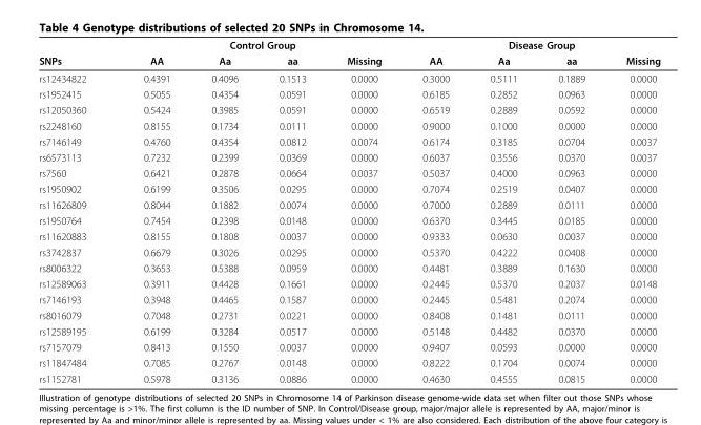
<table><thead><tr><td rowspan="2">SNPs</td><td colspan="4">Control Group</td><td colspan="4">Disease Group</td></tr><tr><td>AA</td><td>Aa</td><td>aa</td><td>Missing</td><td>AA</td><td>Aa</td><td>aa</td><td>Missing</td></tr></thead><tbody><tr><td>rs12434822</td><td>0.4391</td><td>0.4096</td><td>0.1513</td><td>0.0000</td><td>0.3000</td><td>0.5111</td><td>0.1889</td><td>0.0000</td></tr><tr><td>rs1952415</td><td>0.5055</td><td>0.4354</td><td>0.0591</td><td>0.0000</td><td>0.6185</td><td>0.2852</td><td>0.0963</td><td>0.0000</td></tr><tr><td>rs12050360</td><td>0.5424</td><td>0.3985</td><td>0.0591</td><td>0.0000</td><td>0.6519</td><td>0.2889</td><td>0.0592</td><td>0.0000</td></tr><tr><td>rs2248160</td><td>0.8155</td><td>0.1734</td><td>0.0111</td><td>0.0000</td><td>0.9000</td><td>0.1000</td><td>0.0000</td><td>0.0000</td></tr><tr><td>rs7146149</td><td>0.4760</td><td>0.4354</td><td>0.0812</td><td>0.0074</td><td>0.6174</td><td>0.3185</td><td>0.0704</td><td>0.0037</td></tr><tr><td>rs6573113</td><td>0.7232</td><td>0.2399</td><td>0.0369</td><td>0.0000</td><td>0.6037</td><td>0.3556</td><td>0.0370</td><td>0.0037</td></tr><tr><td>rs7560</td><td>0.6421</td><td>0.2878</td><td>0.0664</td><td>0.0037</td><td>0.5037</td><td>0.4000</td><td>0.0963</td><td>0.0000</td></tr><tr><td>rs1950902</td><td>0.6199</td><td>0.3506</td><td>0.0295</td><td>0.0000</td><td>0.7074</td><td>0.2519</td><td>0.0407</td><td>0.0000</td></tr><tr><td>rs11626809</td><td>0.8044</td><td>0.1882</td><td>0.0074</td><td>0.0000</td><td>0.7000</td><td>0.2889</td><td>0.0111</td><td>0.0000</td></tr><tr><td>rs1950764</td><td>0.7454</td><td>0.2398</td><td>0.0148</td><td>0.0000</td><td>0.6370</td><td>0.3445</td><td>0.0185</td><td>0.0000</td></tr><tr><td>rs11620883</td><td>0.8155</td><td>0.1808</td><td>0.0037</td><td>0.0000</td><td>0.9333</td><td>0.0630</td><td>0.0037</td><td>0.0000</td></tr><tr><td>rs3742837</td><td>0.6679</td><td>0.3026</td><td>0.0295</td><td>0.0000</td><td>0.5370</td><td>0.4222</td><td>0.0408</td><td>0.0000</td></tr><tr><td>rs8006322</td><td>0.3653</td><td>0.5388</td><td>0.0959</td><td>0.0000</td><td>0.4481</td><td>0.3889</td><td>0.1630</td><td>0.0000</td></tr><tr><td>rs12589063</td><td>0.3911</td><td>0.4428</td><td>0.1661</td><td>0.0000</td><td>0.2445</td><td>0.5370</td><td>0.2037</td><td>0.0148</td></tr><tr><td>rs7146193</td><td>0.3948</td><td>0.4465</td><td>0.1587</td><td>0.0000</td><td>0.2445</td><td>0.5481</td><td>0.2074</td><td>0.0000</td></tr><tr><td>rs8016079</td><td>0.7048</td><td>0.2731</td><td>0.0221</td><td>0.0000</td><td>0.8408</td><td>0.1481</td><td>0.0111</td><td>0.0000</td></tr><tr><td>rs12589195</td><td>0.6199</td><td>0.3284</td><td>0.0517</td><td>0.0000</td><td>0.5148</td><td>0.4482</td><td>0.0370</td><td>0.0000</td></tr><tr><td>rs7157079</td><td>0.8413</td><td>0.1550</td><td>0.0037</td><td>0.0000</td><td>0.9407</td><td>0.0593</td><td>0.0000</td><td>0.0000</td></tr><tr><td>rs11847484</td><td>0.7085</td><td>0.2767</td><td>0.0148</td><td>0.0000</td><td>0.8222</td><td>0.1704</td><td>0.0074</td><td>0.0000</td></tr><tr><td>rs1152781</td><td>0.5978</td><td>0.3136</td><td>0.0886</td><td>0.0000</td><td>0.4630</td><td>0.4555</td><td>0.0815</td><td>0.0000</td></tr></tbody></table>